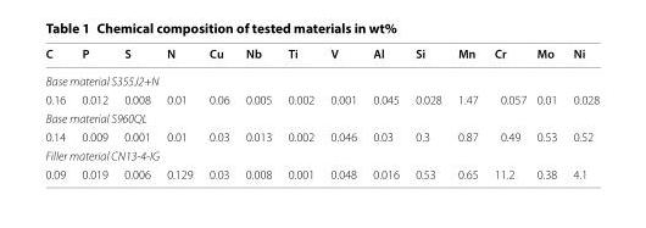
<table><thead><tr><td>C</td><td>P</td><td>S</td><td>N</td><td>Cu</td><td>Nb</td><td>Ti</td><td>V</td><td>Al</td><td>Si</td><td>Mn</td><td>Cr</td><td>Mo</td><td>Ni</td></tr></thead><tbody><tr><td colspan="14">Base material S355J2+N</td></tr><tr><td>0.16</td><td>0.012</td><td>0.008</td><td>0.01</td><td>0.06</td><td>0.005</td><td>0.002</td><td>0.001</td><td>0.045</td><td>0.028</td><td>1.47</td><td>0.057</td><td>0.01</td><td>0.028</td></tr><tr><td colspan="14">Base material S960QL</td></tr><tr><td>0.14</td><td>0.009</td><td>0.001</td><td>0.01</td><td>0.03</td><td>0.013</td><td>0.002</td><td>0.046</td><td>0.03</td><td>0.3</td><td>0.87</td><td>0.49</td><td>0.53</td><td>0.52</td></tr><tr><td colspan="14">Filler material CN13-4-IG</td></tr><tr><td>0.09</td><td>0.019</td><td>0.006</td><td>0.129</td><td>0.03</td><td>0.008</td><td>0.001</td><td>0.048</td><td>0.016</td><td>0.53</td><td>0.65</td><td>11.2</td><td>0.38</td><td>4.1</td></tr></tbody></table>